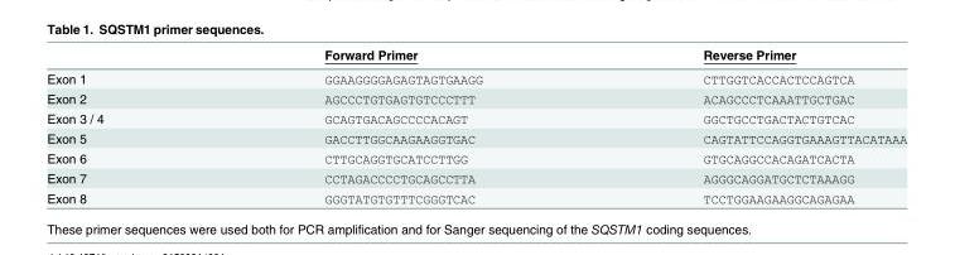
<table><thead><tr><td></td><td>Forward Primer</td><td>Reverse Primer</td></tr></thead><tbody><tr><td>Exon 1</td><td>GGAAGGGGAGAGTAGTGAAGG</td><td>CTTGGTCACCACTCCAGTCA</td></tr><tr><td>Exon 2</td><td>AGCCCTGTGAGTGTCCCTTT</td><td>ACAGCCCTCAAATTGCTGAC</td></tr><tr><td>Exon 3 / 4</td><td>GCAGTGACAGCCCCACAGT</td><td>GGCTGCCTGACTACTGTCAC</td></tr><tr><td>Exon 5</td><td>GACCTTGGCAAGAAGGTGAC</td><td>CAGTATTCCAGGTGAAAGTTACATAAA</td></tr><tr><td>Exon 6</td><td>CTTGCAGGTGCATCCTTGG</td><td>GTGCAGGCCACAGATCACTA</td></tr><tr><td>Exon 7</td><td>CCTAGACCCCTGCAGCCTTA</td><td>AGGGCAGGATGCTCTAAAGG</td></tr><tr><td>Exon 8</td><td>GGGTATGTGTTTCGGGTCAC</td><td>TCCTGGAAGAAGGCAGAGAA</td></tr></tbody></table>